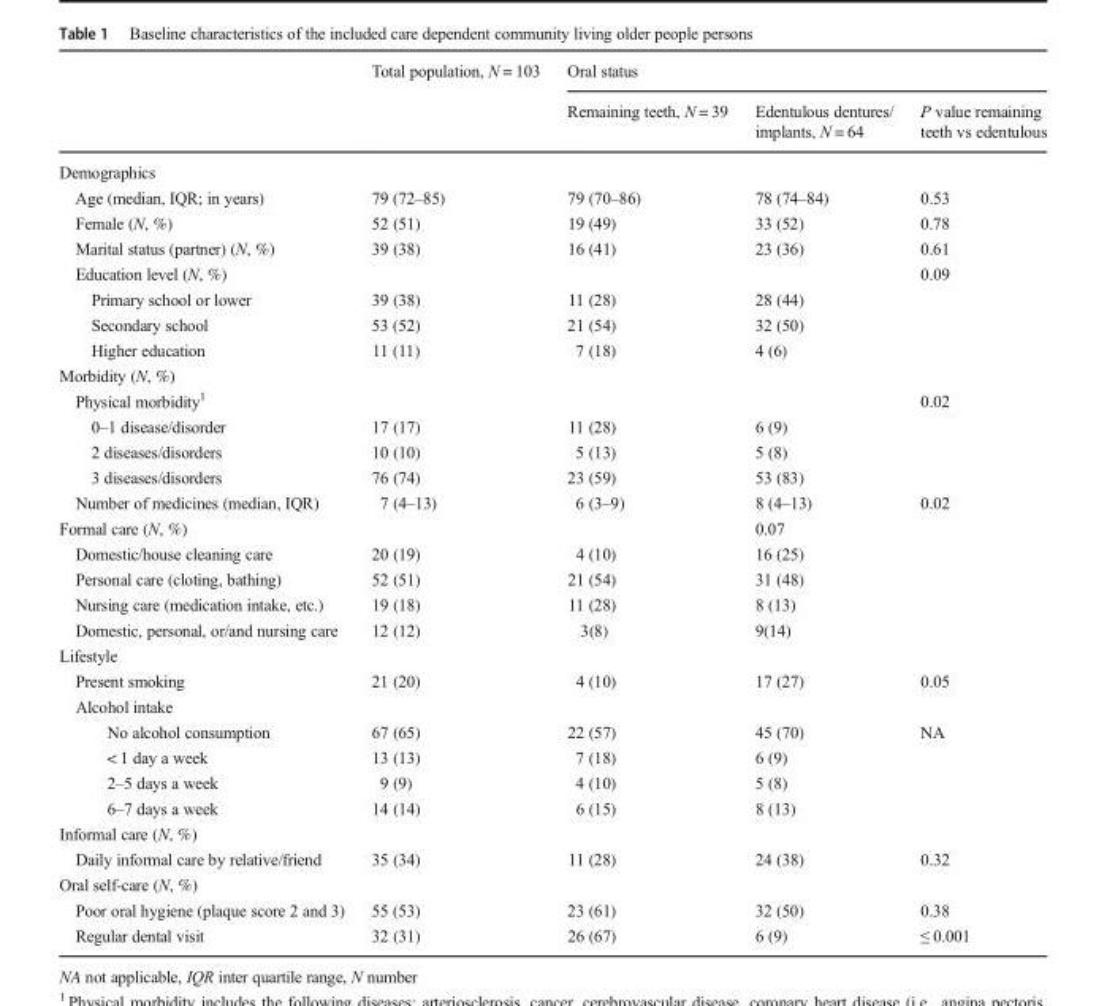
<table><thead><tr><td rowspan="2"></td><td rowspan="2">Total population, N = 103</td><td colspan="3">Oral status</td></tr><tr><td>Remaining teeth, N = 39</td><td>Edentulous dentures/ implants, N = 64</td><td>P value remaining teeth vs edentulous</td></tr></thead><tbody><tr><td colspan="5">Demographics</td></tr><tr><td>Age (median, IQR; in years)</td><td>79 (72–85)</td><td>79 (70–86)</td><td>78 (74–84)</td><td>0.53</td></tr><tr><td>Female (N, %)</td><td>52 (51)</td><td>19 (49)</td><td>33 (52)</td><td>0.78</td></tr><tr><td>Marital status (partner) (N, %)</td><td>39 (38)</td><td>16 (41)</td><td>23 (36)</td><td>0.61</td></tr><tr><td>Education level (N, %)</td><td></td><td></td><td></td><td>0.09</td></tr><tr><td>Primary school or lower</td><td>39 (38)</td><td>11 (28)</td><td>28 (44)</td><td></td></tr><tr><td>Secondary school</td><td>53 (52)</td><td>21 (54)</td><td>32 (50)</td><td></td></tr><tr><td>Higher education</td><td>11 (11)</td><td>7 (18)</td><td>4 (6)</td><td></td></tr><tr><td colspan="5">Morbidity (N, %)</td></tr><tr><td>Physical morbidity<sup>1</sup></td><td></td><td></td><td></td><td>0.02</td></tr><tr><td>0–1 disease/disorder</td><td>17 (17)</td><td>11 (28)</td><td>6 (9)</td><td></td></tr><tr><td>2 diseases/disorders</td><td>10 (10)</td><td>5 (13)</td><td>5 (8)</td><td></td></tr><tr><td>3 diseases/disorders</td><td>76 (74)</td><td>23 (59)</td><td>53 (83)</td><td></td></tr><tr><td>Number of medicines (median, IQR)</td><td>7 (4–13)</td><td>6 (3–9)</td><td>8 (4–13)</td><td>0.02</td></tr><tr><td>Formal care (N, %)</td><td></td><td></td><td>0.07</td><td></td></tr><tr><td>Domestic/house cleaning care</td><td>20 (19)</td><td>4 (10)</td><td>16 (25)</td><td></td></tr><tr><td>Personal care (cloting, bathing)</td><td>52 (51)</td><td>21 (54)</td><td>31 (48)</td><td></td></tr><tr><td>Nursing care (medication intake, etc.)</td><td>19 (18)</td><td>11 (28)</td><td>8 (13)</td><td></td></tr><tr><td>Domestic, personal, or/and nursing care</td><td>12 (12)</td><td>3(8)</td><td>9(14)</td><td></td></tr><tr><td colspan="5">Lifestyle</td></tr><tr><td>Present smoking</td><td>21 (20)</td><td>4 (10)</td><td>17 (27)</td><td>0.05</td></tr><tr><td colspan="5">Alcohol intake</td></tr><tr><td>No alcohol consumption</td><td>67 (65)</td><td>22 (57)</td><td>45 (70)</td><td>NA</td></tr><tr><td>&lt; 1 day a week</td><td>13 (13)</td><td>7 (18)</td><td>6 (9)</td><td></td></tr><tr><td>2–5 days a week</td><td>9 (9)</td><td>4 (10)</td><td>5 (8)</td><td></td></tr><tr><td>6–7 days a week</td><td>14 (14)</td><td>6 (15)</td><td>8 (13)</td><td></td></tr><tr><td colspan="5">Informal care (N, %)</td></tr><tr><td>Daily informal care by relative/friend</td><td>35 (34)</td><td>11 (28)</td><td>24 (38)</td><td>0.32</td></tr><tr><td colspan="5">Oral self-care (N, %)</td></tr><tr><td>Poor oral hygiene (plaque score 2 and 3)</td><td>55 (53)</td><td>23 (61)</td><td>32 (50)</td><td>0.38</td></tr><tr><td>Regular dental visit</td><td>32 (31)</td><td>26 (67)</td><td>6 (9)</td><td>≤ 0.001</td></tr></tbody></table>